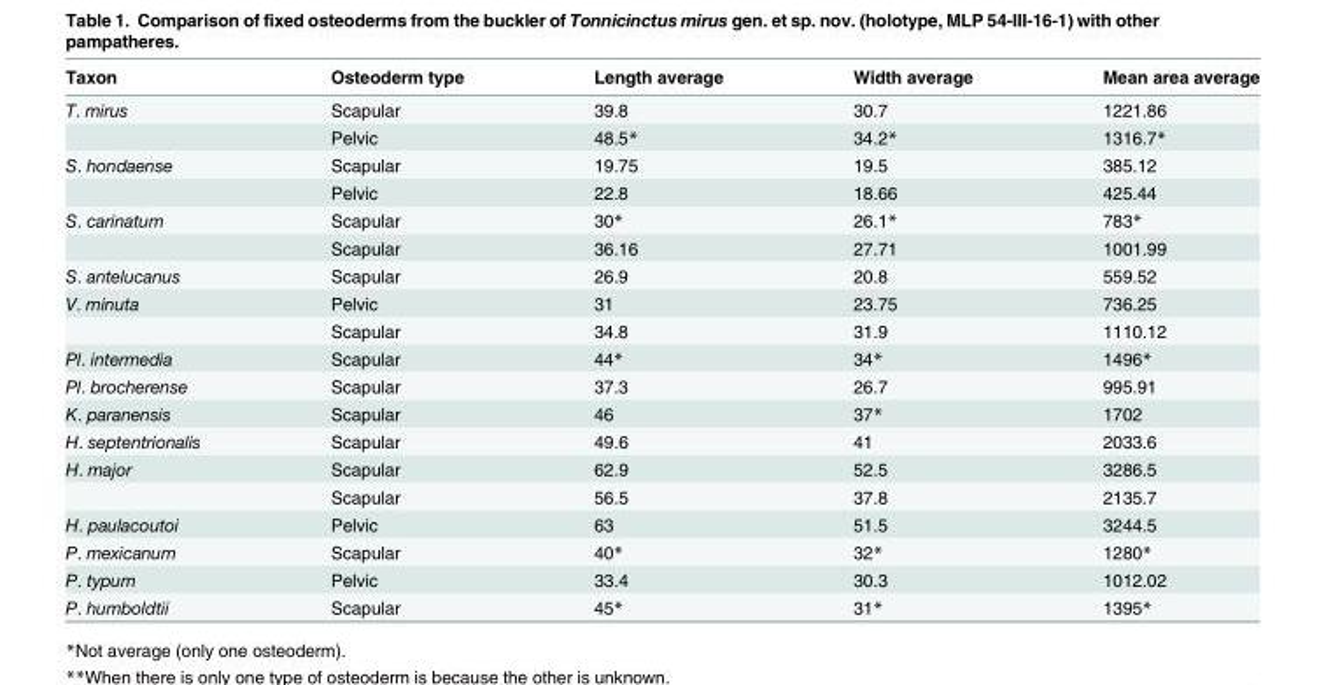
<table><thead><tr><td>Taxon</td><td>Osteoderm type</td><td>Length average</td><td>Width average</td><td>Mean area average</td></tr></thead><tbody><tr><td rowspan="2">T. mirus</td><td>Scapular</td><td>39.8</td><td>30.7</td><td>1221.86</td></tr><tr><td>Pelvic</td><td>48.5*</td><td>34.2*</td><td>1316.7*</td></tr><tr><td rowspan="2">S. hondaense</td><td>Scapular</td><td>19.75</td><td>19.5</td><td>385.12</td></tr><tr><td>Pelvic</td><td>22.8</td><td>18.66</td><td>425.44</td></tr><tr><td rowspan="2">S. carinatum</td><td>Scapular</td><td>30*</td><td>26.1*</td><td>783*</td></tr><tr><td>Scapular</td><td>36.16</td><td>27.71</td><td>1001.99</td></tr><tr><td>S. antelucanus</td><td>Scapular</td><td>26.9</td><td>20.8</td><td>559.52</td></tr><tr><td rowspan="2">V. minuta</td><td>Pelvic</td><td>31</td><td>23.75</td><td>736.25</td></tr><tr><td>Scapular</td><td>34.8</td><td>31.9</td><td>1110.12</td></tr><tr><td>Pl. intermedia</td><td>Scapular</td><td>44*</td><td>34*</td><td>1496*</td></tr><tr><td>Pl. brocherense</td><td>Scapular</td><td>37.3</td><td>26.7</td><td>995.91</td></tr><tr><td>K. paranensis</td><td>Scapular</td><td>46</td><td>37*</td><td>1702</td></tr><tr><td>H. septentrionalis</td><td>Scapular</td><td>49.6</td><td>41</td><td>2033.6</td></tr><tr><td rowspan="2">H. major</td><td>Scapular</td><td>62.9</td><td>52.5</td><td>3286.5</td></tr><tr><td>Scapular</td><td>56.5</td><td>37.8</td><td>2135.7</td></tr><tr><td>H. paulacoutoi</td><td>Pelvic</td><td>63</td><td>51.5</td><td>3244.5</td></tr><tr><td>P. mexicanum</td><td>Scapular</td><td>40*</td><td>32*</td><td>1280*</td></tr><tr><td>P. typum</td><td>Pelvic</td><td>33.4</td><td>30.3</td><td>1012.02</td></tr><tr><td>P. humboldtii</td><td>Scapular</td><td>45*</td><td>31*</td><td>1395*</td></tr></tbody></table>